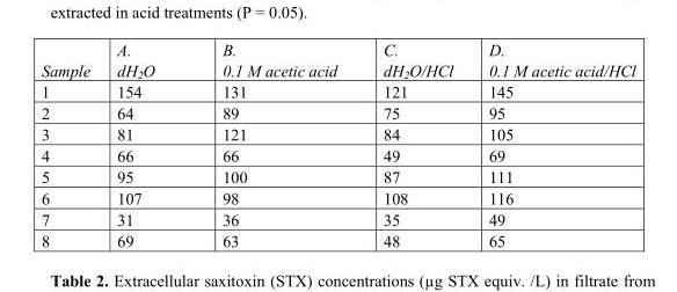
<table><thead><tr><td>Sample</td><td>A. dH<sub>2</sub>O</td><td>B. 0.1 M acetic acid</td><td>C. dH<sub>2</sub>O/HCl</td><td>D. 0.1 M acetic acid/HCl</td></tr></thead><tbody><tr><td>1</td><td>154</td><td>131</td><td>121</td><td>145</td></tr><tr><td>2</td><td>64</td><td>89</td><td>75</td><td>95</td></tr><tr><td>3</td><td>81</td><td>121</td><td>84</td><td>105</td></tr><tr><td>4</td><td>66</td><td>66</td><td>49</td><td>69</td></tr><tr><td>5</td><td>95</td><td>100</td><td>87</td><td>111</td></tr><tr><td>6</td><td>107</td><td>98</td><td>108</td><td>116</td></tr><tr><td>7</td><td>31</td><td>36</td><td>35</td><td>49</td></tr><tr><td>8</td><td>69</td><td>63</td><td>48</td><td>65</td></tr></tbody></table>